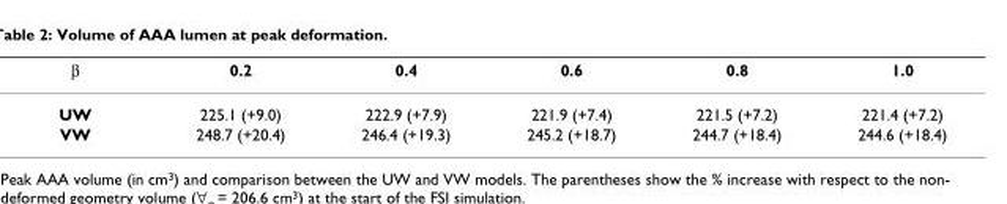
<table><thead><tr><td>β</td><td>0.2</td><td>0.4</td><td>0.6</td><td>0.8</td><td>1.0</td></tr></thead><tbody><tr><td>UW</td><td>225.1 (+9.0)</td><td>222.9 (+7.9)</td><td>221.9 (+7.4)</td><td>221.5 (+7.2)</td><td>221.4 (+7.2)</td></tr><tr><td>VW</td><td>248.7 (+20.4)</td><td>246.4 (+19.3)</td><td>245.2 (+18.7)</td><td>244.7 (+18.4)</td><td>244.6 (+18.4)</td></tr></tbody></table>